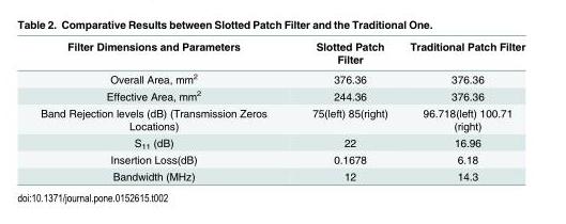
<table><thead><tr><td>Filter Dimensions and Parameters</td><td>Slotted Patch Filter</td><td>Traditional Patch Filter</td></tr></thead><tbody><tr><td>Overall Area, mm<sup>2</sup></td><td>376.36</td><td>376.36</td></tr><tr><td>Effective Area, mm<sup>2</sup></td><td>244.36</td><td>376.36</td></tr><tr><td>Band Rejection levels (dB) (Transmission Zeros Locations)</td><td>75(left) 85(right)</td><td>96.718(left) 100.71 (right)</td></tr><tr><td>S<sub>11</sub> (dB)</td><td>22</td><td>16.96</td></tr><tr><td>Insertion Loss(dB)</td><td>0.1678</td><td>6.18</td></tr><tr><td>Bandwidth (MHz)</td><td>12</td><td>14.3</td></tr></tbody></table>